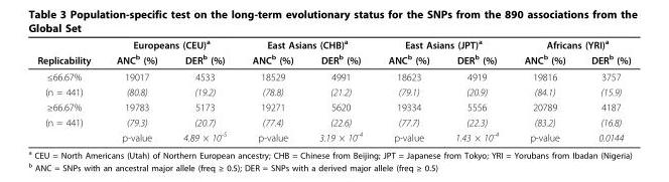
<table><thead><tr><td rowspan="2">Replicability</td><td colspan="2">Europeans (CEU)<sup>a</sup></td><td colspan="2">East Asians (CHB)<sup>a</sup></td><td colspan="2">East Asians (JPT)<sup>a</sup></td><td colspan="2">Africans (YRI)<sup>a</sup></td></tr><tr><td>ANC<sup>b</sup> (%)</td><td>DER<sup>b</sup> (%)</td><td>ANC<sup>b</sup> (%)</td><td>DER<sup>b</sup> (%)</td><td>ANC<sup>b</sup> (%)</td><td>DER<sup>b</sup> (%)</td><td>ANC<sup>b</sup> (%)</td><td>DER<sup>b</sup> (%)</td></tr></thead><tbody><tr><td>≤66.67%</td><td>19017</td><td>4533</td><td>18529</td><td>4991</td><td>18623</td><td>4919</td><td>19816</td><td>3757</td></tr><tr><td>(n = 441)</td><td>(80.8)</td><td>(19.2)</td><td>(78.8)</td><td>(21.2)</td><td>(79.1)</td><td>(20.9)</td><td>(84.1)</td><td>(15.9)</td></tr><tr><td>≥66.67%</td><td>19783</td><td>5173</td><td>19271</td><td>5620</td><td>19334</td><td>5556</td><td>20789</td><td>4187</td></tr><tr><td rowspan="2">(n = 441)</td><td>(79.3)</td><td>(20.7)</td><td>(77.4)</td><td>(22.6)</td><td>(77.7)</td><td>(22.3)</td><td>(83.2)</td><td>(16.8)</td></tr><tr><td>p-value</td><td>4.89 × 10<sup>-5</sup></td><td>p-value</td><td>3.19 × 10<sup>-4</sup></td><td>p-value</td><td>1.43 × 10<sup>-4</sup></td><td>p-value</td><td>0.0144</td></tr></tbody></table>